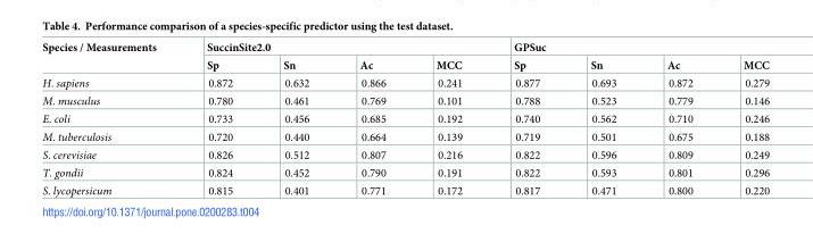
<table><thead><tr><td rowspan="2">Species / Measurements</td><td colspan="4">SuccinSite2.0</td><td colspan="4">GPSuc</td></tr><tr><td>Sp</td><td>Sn</td><td>Ac</td><td>MCC</td><td>Sp</td><td>Sn</td><td>Ac</td><td>MCC</td></tr></thead><tbody><tr><td>H. sapiens</td><td>0.872</td><td>0.632</td><td>0.866</td><td>0.241</td><td>0.877</td><td>0.693</td><td>0.872</td><td>0.279</td></tr><tr><td>M. musculus</td><td>0.780</td><td>0.461</td><td>0.769</td><td>0.101</td><td>0.788</td><td>0.523</td><td>0.779</td><td>0.146</td></tr><tr><td>E. coli</td><td>0.733</td><td>0.456</td><td>0.685</td><td>0.192</td><td>0.740</td><td>0.562</td><td>0.710</td><td>0.246</td></tr><tr><td>M. tuberculosis</td><td>0.720</td><td>0.440</td><td>0.664</td><td>0.139</td><td>0.719</td><td>0.501</td><td>0.675</td><td>0.188</td></tr><tr><td>S. cerevisiae</td><td>0.826</td><td>0.512</td><td>0.807</td><td>0.216</td><td>0.822</td><td>0.596</td><td>0.809</td><td>0.249</td></tr><tr><td>T. gondii</td><td>0.824</td><td>0.452</td><td>0.790</td><td>0.191</td><td>0.822</td><td>0.593</td><td>0.801</td><td>0.296</td></tr><tr><td>S. lycopersicum</td><td>0.815</td><td>0.401</td><td>0.771</td><td>0.172</td><td>0.817</td><td>0.471</td><td>0.800</td><td>0.220</td></tr></tbody></table>